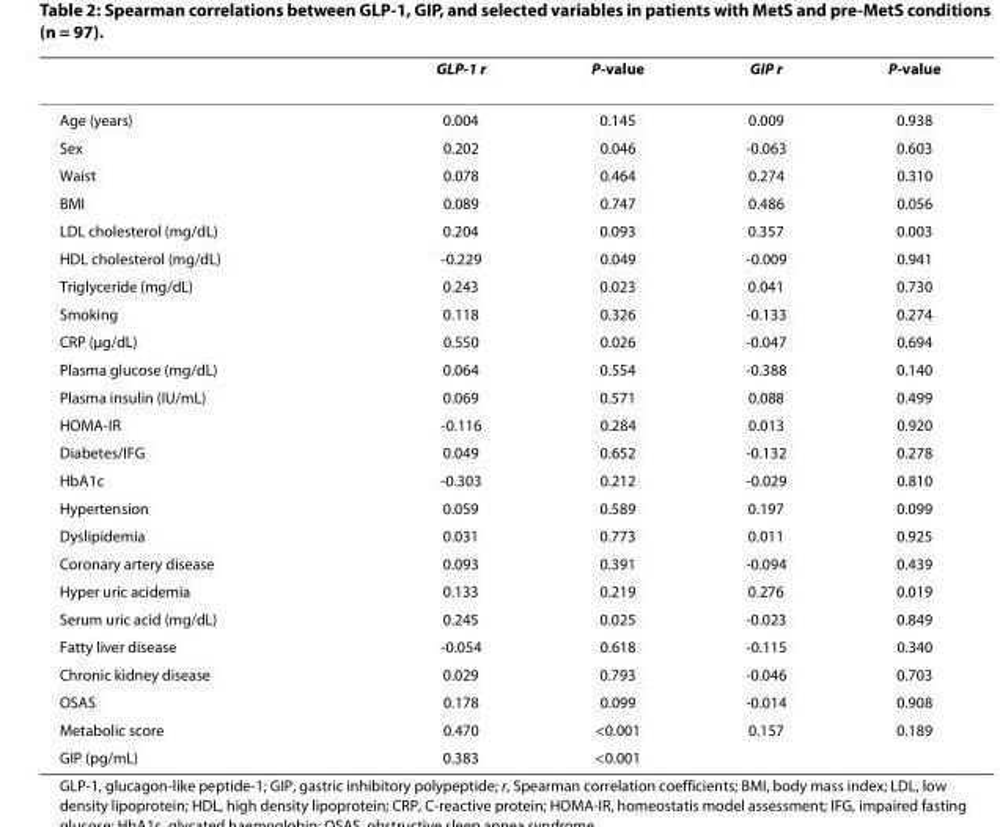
<table><thead><tr><td></td><td>GLP-1 r</td><td>P-value</td><td>GIP r</td><td>P-value</td></tr></thead><tbody><tr><td>Age (years)</td><td>0.004</td><td>0.145</td><td>0.009</td><td>0.938</td></tr><tr><td>Sex</td><td>0.202</td><td>0.046</td><td>-0.063</td><td>0.603</td></tr><tr><td>Waist</td><td>0.078</td><td>0.464</td><td>0.274</td><td>0.310</td></tr><tr><td>BMI</td><td>0.089</td><td>0.747</td><td>0.486</td><td>0.056</td></tr><tr><td>LDL cholesterol (mg/dL)</td><td>0.204</td><td>0.093</td><td>0.357</td><td>0.003</td></tr><tr><td>HDL cholesterol (mg/dL)</td><td>-0.229</td><td>0.049</td><td>-0.009</td><td>0.941</td></tr><tr><td>Triglyceride (mg/dL)</td><td>0.243</td><td>0.023</td><td>0.041</td><td>0.730</td></tr><tr><td>Smoking</td><td>0.118</td><td>0.326</td><td>-0.133</td><td>0.274</td></tr><tr><td>CRP (μg/dL)</td><td>0.550</td><td>0.026</td><td>-0.047</td><td>0.694</td></tr><tr><td>Plasma glucose (mg/dL)</td><td>0.064</td><td>0.554</td><td>-0.388</td><td>0.140</td></tr><tr><td>Plasma insulin (IU/mL)</td><td>0.069</td><td>0.571</td><td>0.088</td><td>0.499</td></tr><tr><td>HOMA-IR</td><td>-0.116</td><td>0.284</td><td>0.013</td><td>0.920</td></tr><tr><td>Diabetes/IFG</td><td>0.049</td><td>0.652</td><td>-0.132</td><td>0.278</td></tr><tr><td>HbA1c</td><td>-0.303</td><td>0.212</td><td>-0.029</td><td>0.810</td></tr><tr><td>Hypertension</td><td>0.059</td><td>0.589</td><td>0.197</td><td>0.099</td></tr><tr><td>Dyslipidemia</td><td>0.031</td><td>0.773</td><td>0.011</td><td>0.925</td></tr><tr><td>Coronary artery disease</td><td>0.093</td><td>0.391</td><td>-0.094</td><td>0.439</td></tr><tr><td>Hyper uric acidemia</td><td>0.133</td><td>0.219</td><td>0.276</td><td>0.019</td></tr><tr><td>Serum uric acid (mg/dL)</td><td>0.245</td><td>0.025</td><td>-0.023</td><td>0.849</td></tr><tr><td>Fatty liver disease</td><td>-0.054</td><td>0.618</td><td>-0.115</td><td>0.340</td></tr><tr><td>Chronic kidney disease</td><td>0.029</td><td>0.793</td><td>-0.046</td><td>0.703</td></tr><tr><td>OSAS</td><td>0.178</td><td>0.099</td><td>-0.014</td><td>0.908</td></tr><tr><td>Metabolic score</td><td>0.470</td><td>&lt;0.001</td><td>0.157</td><td>0.189</td></tr><tr><td>GIP (pg/mL)</td><td>0.383</td><td>&lt;0.001</td><td></td><td></td></tr></tbody></table>